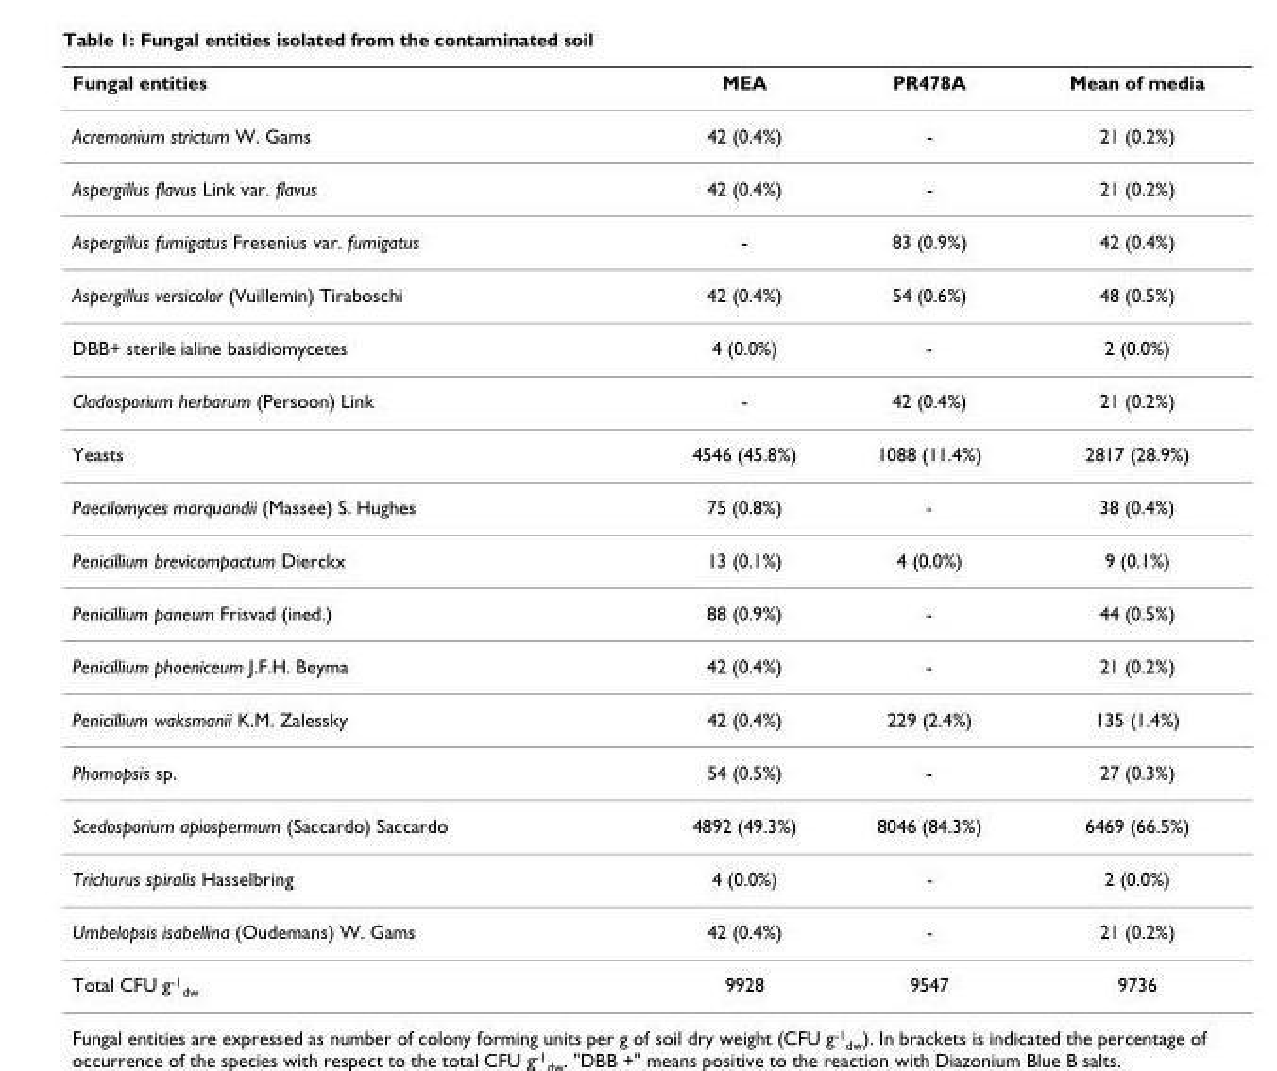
<table><thead><tr><td>Fungal entities</td><td>MEA</td><td>PR478A</td><td>Mean of media</td></tr></thead><tbody><tr><td>Acremonium strictum W. Gams</td><td>42 (0.4%)</td><td>-</td><td>21 (0.2%)</td></tr><tr><td>Aspergillus flavus Link var. flavus</td><td>42 (0.4%)</td><td>-</td><td>21 (0.2%)</td></tr><tr><td>Aspergillus fumigatus Fresenius var. fumigatus</td><td>-</td><td>83 (0.9%)</td><td>42 (0.4%)</td></tr><tr><td>Aspergillus versicolor (Vuillemin) Tiraboschi</td><td>42 (0.4%)</td><td>54 (0.6%)</td><td>48 (0.5%)</td></tr><tr><td>DBB+ sterile ialine basidiomycetes</td><td>4 (0.0%)</td><td>-</td><td>2 (0.0%)</td></tr><tr><td>Cladosporium herbarum (Persoon) Link</td><td>-</td><td>42 (0.4%)</td><td>21 (0.2%)</td></tr><tr><td>Yeasts</td><td>4546 (45.8%)</td><td>1088 (11.4%)</td><td>2817 (28.9%)</td></tr><tr><td>Paecilomyces marquandii (Massee) S. Hughes</td><td>75 (0.8%)</td><td>-</td><td>38 (0.4%)</td></tr><tr><td>Penicillium brevicompactum Dierckx</td><td>13 (0.1%)</td><td>4 (0.0%)</td><td>9 (0.1%)</td></tr><tr><td>Penicillium paneum Frisvad (ined.)</td><td>88 (0.9%)</td><td>-</td><td>44 (0.5%)</td></tr><tr><td>Penicillium phoeniceum J.F.H. Beyma</td><td>42 (0.4%)</td><td>-</td><td>21 (0.2%)</td></tr><tr><td>Penicillium waksmanii K.M. Zalessky</td><td>42 (0.4%)</td><td>229 (2.4%)</td><td>135 (1.4%)</td></tr><tr><td>Phomopsis sp.</td><td>54 (0.5%)</td><td>-</td><td>27 (0.3%)</td></tr><tr><td>Scedosporium apiospermum (Saccardo) Saccardo</td><td>4892 (49.3%)</td><td>8046 (84.3%)</td><td>6469 (66.5%)</td></tr><tr><td>Trichurus spiralis Hasselbring</td><td>4 (0.0%)</td><td>-</td><td>2 (0.0%)</td></tr><tr><td>Umbelopsis isabellina (Oudemans) W. Gams</td><td>42 (0.4%)</td><td>-</td><td>21 (0.2%)</td></tr><tr><td>Total CFU g<sup>-1</sup><sub>dw</sub></td><td>9928</td><td>9547</td><td>9736</td></tr></tbody></table>